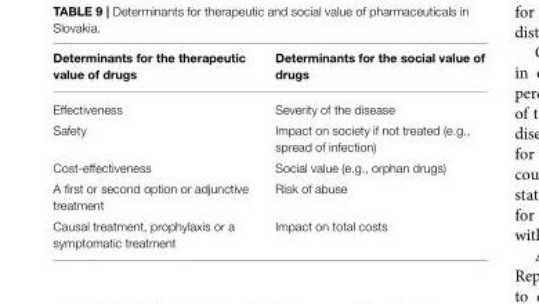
<table><thead><tr><td>Determinants for the therapeutic value of drugs</td><td>Determinants for the social value of drugs</td></tr></thead><tbody><tr><td>Effectiveness</td><td>Severity of the disease</td></tr><tr><td>Safety</td><td>Impact on society if not treated (e.g., spread of infection)</td></tr><tr><td>Cost-effectiveness</td><td>Social value (e.g., orphan drugs)</td></tr><tr><td>A first or second option or adjunctive treatment</td><td>Risk of abuse</td></tr><tr><td>Causal treatment, prophylaxis or a symptomatic treatment</td><td>Impact on total costs</td></tr></tbody></table>